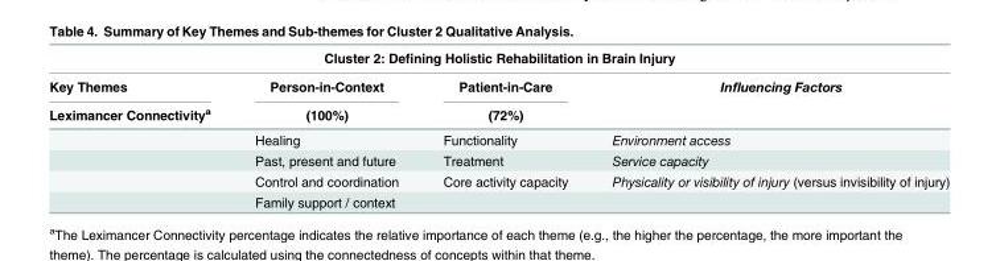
<table><thead><tr><td colspan="4">Cluster 2: Defining Holistic Rehabilitation in Brain Injury</td></tr><tr><td rowspan="2">Key Themes Leximancer Connectivity<sup>a</sup></td><td rowspan="2">Person-in-Context (100%)</td><td rowspan="2">Patient-in-Care (72%)</td><td rowspan="2">Influencing Factors</td></tr><tr></tr></thead><tbody><tr><td></td><td>Healing</td><td>Functionality</td><td>Environment access</td></tr><tr><td></td><td>Past, present and future</td><td>Treatment</td><td>Service capacity</td></tr><tr><td></td><td>Control and coordination</td><td>Core activity capacity</td><td>Physicality or visibility of injury (versus invisibility of injury)</td></tr><tr><td></td><td>Family support / context</td><td></td><td></td></tr></tbody></table>